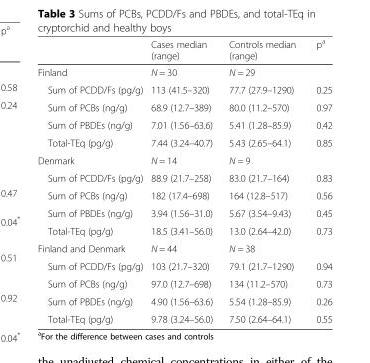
<table><thead><tr><td></td><td>Cases median (range)</td><td>Controls median (range)</td><td>p<sup>a</sup></td></tr></thead><tbody><tr><td>Finland</td><td>N = 30</td><td>N = 29</td><td></td></tr><tr><td>Sum of PCDD/Fs (pg/g)</td><td>113 (41.5–320)</td><td>77.7 (27.9–1290)</td><td>0.25</td></tr><tr><td>Sum of PCBs (ng/g)</td><td>68.9 (12.7–389)</td><td>80.0 (11.2–570)</td><td>0.97</td></tr><tr><td>Sum of PBDEs (ng/g)</td><td>7.01 (1.56–63.6)</td><td>5.41 (1.28–85.9)</td><td>0.42</td></tr><tr><td>Total-TEq (pg/g)</td><td>7.44 (3.24–40.7)</td><td>5.43 (2.65–64.1)</td><td>0.85</td></tr><tr><td>Denmark</td><td>N = 14</td><td>N = 9</td><td></td></tr><tr><td>Sum of PCDD/Fs (pg/g)</td><td>88.9 (21.7–258)</td><td>83.0 (21.7–164)</td><td>0.83</td></tr><tr><td>Sum of PCBs (ng/g)</td><td>182 (17.4–698)</td><td>164 (12.8–517)</td><td>0.56</td></tr><tr><td>Sum of PBDEs (ng/g)</td><td>3.94 (1.56–31.0)</td><td>5.67 (3.54–9.43)</td><td>0.45</td></tr><tr><td>Total-TEq (pg/g)</td><td>18.5 (3.41–56.0)</td><td>13.0 (2.64–42.0)</td><td>0.73</td></tr><tr><td>Finland and Denmark</td><td>N = 44</td><td>N = 38</td><td></td></tr><tr><td>Sum of PCDD/Fs (pg/g)</td><td>103 (21.7–320)</td><td>79.1 (21.7–1290)</td><td>0.94</td></tr><tr><td>Sum of PCBs (ng/g)</td><td>97.0 (12.7–698)</td><td>134 (11.2–570)</td><td>0.73</td></tr><tr><td>Sum of PBDEs (ng/g)</td><td>4.90 (1.56–63.6)</td><td>5.54 (1.28–85.9)</td><td>0.26</td></tr><tr><td>Total-TEq (pg/g)</td><td>9.78 (3.24–56.0)</td><td>7.50 (2.64–64.1)</td><td>0.55</td></tr></tbody></table>